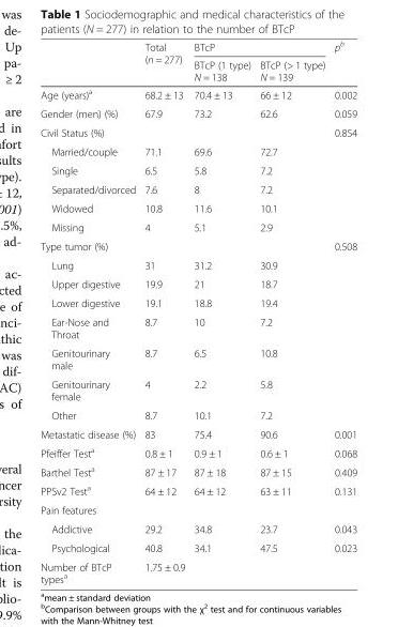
<table><thead><tr><td rowspan="2"></td><td rowspan="2">Total (n = 277)</td><td colspan="2">BTcP</td><td rowspan="2">p<sup>b</sup></td></tr><tr><td>BTcP (1 type) N = 138</td><td>BTcP (&gt; 1 type) N = 139</td></tr></thead><tbody><tr><td>Age (years)<sup>a</sup></td><td>68.2 ± 13</td><td>70.4 ± 13</td><td>66 ± 12</td><td>0.002</td></tr><tr><td>Gender (men) (%)</td><td>67.9</td><td>73.2</td><td>62.6</td><td>0.059</td></tr><tr><td>Civil Status (%)</td><td></td><td></td><td></td><td>0.854</td></tr><tr><td>Married/couple</td><td>71.1</td><td>69.6</td><td>72.7</td><td></td></tr><tr><td>Single</td><td>6.5</td><td>5.8</td><td>7.2</td><td></td></tr><tr><td>Separated/divorced</td><td>7.6</td><td>8</td><td>7.2</td><td></td></tr><tr><td>Widowed</td><td>10.8</td><td>11.6</td><td>10.1</td><td></td></tr><tr><td>Missing</td><td>4</td><td>5.1</td><td>2.9</td><td></td></tr><tr><td>Type tumor (%)</td><td></td><td></td><td></td><td>0.508</td></tr><tr><td>Lung</td><td>31</td><td>31.2</td><td>30.9</td><td></td></tr><tr><td>Upper digestive</td><td>19.9</td><td>21</td><td>18.7</td><td></td></tr><tr><td>Lower digestive</td><td>19.1</td><td>18.8</td><td>19.4</td><td></td></tr><tr><td>Ear-Nose and Throat</td><td>8.7</td><td>10</td><td>7.2</td><td></td></tr><tr><td>Genitourinary male</td><td>8.7</td><td>6.5</td><td>10.8</td><td></td></tr><tr><td>Genitourinary female</td><td>4</td><td>2.2</td><td>5.8</td><td></td></tr><tr><td>Other</td><td>8.7</td><td>10.1</td><td>7.2</td><td></td></tr><tr><td>Metastatic disease (%)</td><td>83</td><td>75.4</td><td>90.6</td><td>0.001</td></tr><tr><td>Pfeiffer Test<sup>a</sup></td><td>0.8 ± 1</td><td>0.9 ± 1</td><td>0.6 ± 1</td><td>0.068</td></tr><tr><td>Barthel Test<sup>a</sup></td><td>87 ± 17</td><td>87 ± 18</td><td>87 ± 15</td><td>0.409</td></tr><tr><td>PPSv2 Test<sup>a</sup></td><td>64 ± 12</td><td>64 ± 12</td><td>63 ± 11</td><td>0.131</td></tr><tr><td colspan="5">Pain features</td></tr><tr><td>Addictive</td><td>29.2</td><td>34.8</td><td>23.7</td><td>0.043</td></tr><tr><td>Psychological</td><td>40.8</td><td>34.1</td><td>47.5</td><td>0.023</td></tr><tr><td>Number of BTcP types<sup>a</sup></td><td>1.75 ± 0.9</td><td></td><td></td><td></td></tr></tbody></table>